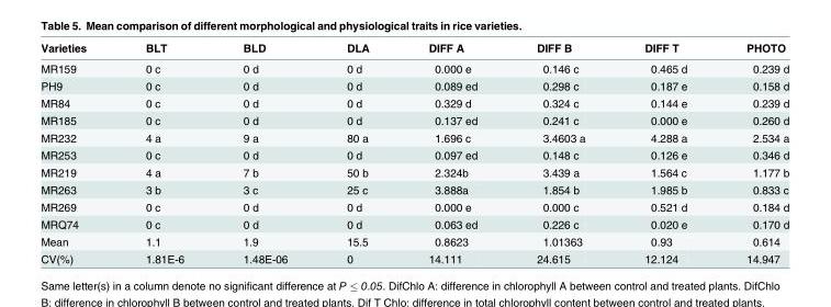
<table><thead><tr><td>Varieties</td><td>BLT</td><td>BLD</td><td>DLA</td><td>DIFF A</td><td>DIFF B</td><td>DIFF T</td><td>PHOTO</td></tr></thead><tbody><tr><td>MR159</td><td>0 c</td><td>0 d</td><td>0 d</td><td>0.000 e</td><td>0.146 c</td><td>0.465 d</td><td>0.239 d</td></tr><tr><td>PH9</td><td>0 c</td><td>0 d</td><td>0 d</td><td>0.089 ed</td><td>0.298 c</td><td>0.187 e</td><td>0.158 d</td></tr><tr><td>MR84</td><td>0 c</td><td>0 d</td><td>0 d</td><td>0.329 d</td><td>0.324 c</td><td>0.144 e</td><td>0.239 d</td></tr><tr><td>MR185</td><td>0 c</td><td>0 d</td><td>0 d</td><td>0.137 ed</td><td>0.241 c</td><td>0.000 e</td><td>0.260 d</td></tr><tr><td>MR232</td><td>4 a</td><td>9 a</td><td>80 a</td><td>1.696 c</td><td>3.4603 a</td><td>4.288 a</td><td>2.534 a</td></tr><tr><td>MR253</td><td>0 c</td><td>0 d</td><td>0 d</td><td>0.097 ed</td><td>0.148 c</td><td>0.126 e</td><td>0.346 d</td></tr><tr><td>MR219</td><td>4 a</td><td>7 b</td><td>50 b</td><td>2.324b</td><td>3.439 a</td><td>1.564 c</td><td>1.177 b</td></tr><tr><td>MR263</td><td>3 b</td><td>3 c</td><td>25 c</td><td>3.888a</td><td>1.854 b</td><td>1.985 b</td><td>0.833 c</td></tr><tr><td>MR269</td><td>0 c</td><td>0 d</td><td>0 d</td><td>0.000 e</td><td>0.000 c</td><td>0.521 d</td><td>0.184 d</td></tr><tr><td>MRQ74</td><td>0 c</td><td>0 d</td><td>0 d</td><td>0.063 ed</td><td>0.226 c</td><td>0.020 e</td><td>0.170 d</td></tr><tr><td>Mean</td><td>1.1</td><td>1.9</td><td>15.5</td><td>0.8623</td><td>1.01363</td><td>0.93</td><td>0.614</td></tr><tr><td>CV(%)</td><td>1.81E-6</td><td>1.48E-06</td><td>0</td><td>14.111</td><td>24.615</td><td>12.124</td><td>14.947</td></tr></tbody></table>